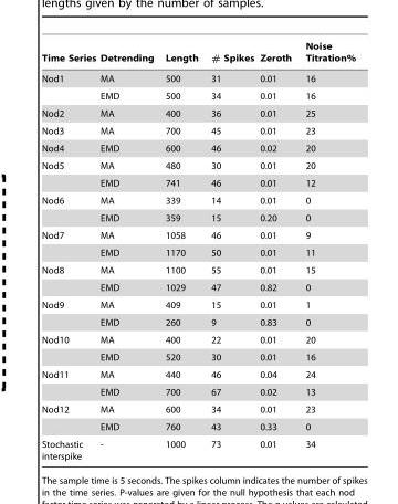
<table><thead><tr><td>Time Series</td><td>Detrending</td><td>Length</td><td># Spikes</td><td>Zeroth</td><td>Noise Titration%</td></tr></thead><tbody><tr><td rowspan="2">Nod1</td><td>MA</td><td>500</td><td>31</td><td>0.01</td><td>16</td></tr><tr><td>EMD</td><td>500</td><td>34</td><td>0.01</td><td>16</td></tr><tr><td>Nod2</td><td>MA</td><td>400</td><td>36</td><td>0.01</td><td>25</td></tr><tr><td>Nod3</td><td>MA</td><td>700</td><td>45</td><td>0.01</td><td>23</td></tr><tr><td>Nod4</td><td>EMD</td><td>600</td><td>46</td><td>0.02</td><td>20</td></tr><tr><td rowspan="2">Nod5</td><td>MA</td><td>480</td><td>30</td><td>0.01</td><td>20</td></tr><tr><td>EMD</td><td>741</td><td>46</td><td>0.01</td><td>12</td></tr><tr><td rowspan="2">Nod6</td><td>MA</td><td>339</td><td>14</td><td>0.01</td><td>0</td></tr><tr><td>EMD</td><td>359</td><td>15</td><td>0.20</td><td>0</td></tr><tr><td rowspan="2">Nod7</td><td>MA</td><td>1058</td><td>46</td><td>0.01</td><td>9</td></tr><tr><td>EMD</td><td>1170</td><td>50</td><td>0.01</td><td>11</td></tr><tr><td rowspan="2">Nod8</td><td>MA</td><td>1100</td><td>55</td><td>0.01</td><td>15</td></tr><tr><td>EMD</td><td>1029</td><td>47</td><td>0.82</td><td>0</td></tr><tr><td rowspan="2">Nod9</td><td>MA</td><td>409</td><td>15</td><td>0.01</td><td>1</td></tr><tr><td>EMD</td><td>260</td><td>9</td><td>0.83</td><td>0</td></tr><tr><td rowspan="2">Nod10</td><td>MA</td><td>400</td><td>22</td><td>0.01</td><td>20</td></tr><tr><td>EMD</td><td>520</td><td>30</td><td>0.01</td><td>16</td></tr><tr><td rowspan="2">Nod11</td><td>MA</td><td>440</td><td>46</td><td>0.04</td><td>24</td></tr><tr><td>EMD</td><td>700</td><td>67</td><td>0.02</td><td>13</td></tr><tr><td rowspan="2">Nod12</td><td>MA</td><td>600</td><td>34</td><td>0.01</td><td>23</td></tr><tr><td>EMD</td><td>760</td><td>43</td><td>0.33</td><td>0</td></tr><tr><td>Stochastic interspike</td><td>-</td><td>1000</td><td>73</td><td>0.01</td><td>34</td></tr></tbody></table>